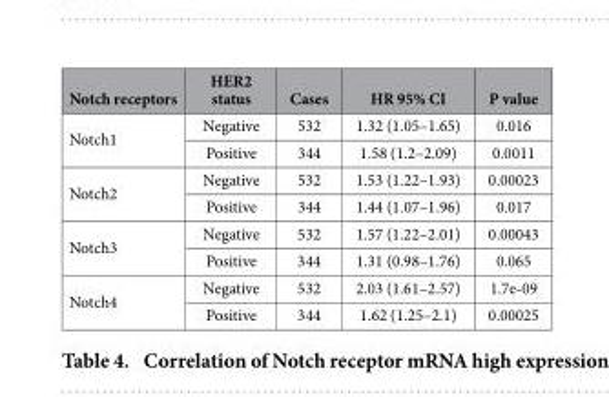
<table><thead><tr><td>Notch receptors</td><td>HER2 status</td><td>Cases</td><td>HR 95% CI</td><td>P value</td></tr></thead><tbody><tr><td rowspan="2">Notch1</td><td>Negative</td><td>532</td><td>1.32 (1.05–1.65)</td><td>0.016</td></tr><tr><td>Positive</td><td>344</td><td>1.58 (1.2–2.09)</td><td>0.0011</td></tr><tr><td rowspan="2">Notch2</td><td>Negative</td><td>532</td><td>1.53 (1.22–1.93)</td><td>0.00023</td></tr><tr><td>Positive</td><td>344</td><td>1.44 (1.07–1.96)</td><td>0.017</td></tr><tr><td rowspan="2">Notch3</td><td>Negative</td><td>532</td><td>1.57 (1.22–2.01)</td><td>0.00043</td></tr><tr><td>Positive</td><td>344</td><td>1.31 (0.98–1.76)</td><td>0.065</td></tr><tr><td rowspan="2">Notch4</td><td>Negative</td><td>532</td><td>2.03 (1.61–2.57)</td><td>1.7e-09</td></tr><tr><td>Positive</td><td>344</td><td>1.62 (1.25–2.1)</td><td>0.00025</td></tr></tbody></table>